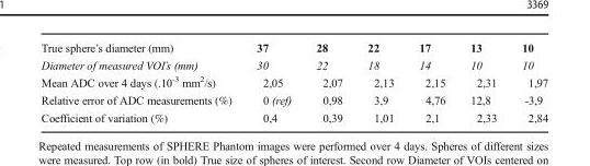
<table><tbody><tr><td>True sphere’s diameter (mm)</td><td>37</td><td>28</td><td>22</td><td>17</td><td>13</td><td>10</td></tr><tr><td>Diameter of measured VOI’s (mm)</td><td>30</td><td>22</td><td>18</td><td>14</td><td>10</td><td>10</td></tr><tr><td>Mean ADC over 4 days (.10<sup>-3</sup> mm<sup>2</sup>/s)</td><td>2,05</td><td>2,07</td><td>2,13</td><td>2,15</td><td>2,31</td><td>1,97</td></tr><tr><td>Relative error of ADC measurements (%)</td><td>0 (ref)</td><td>0,98</td><td>3,9</td><td>4,76</td><td>12,8</td><td>-3,9</td></tr><tr><td>Coefficient of variation (%)</td><td>0,4</td><td>0,39</td><td>1,01</td><td>2,1</td><td>2,33</td><td>2,84</td></tr></tbody></table>